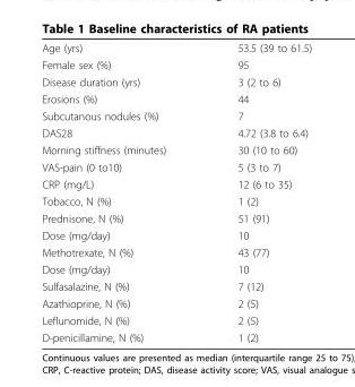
<table><tbody><tr><td>Age (yrs)</td><td>53.5 (39 to 61.5)</td></tr><tr><td>Female sex (%)</td><td>95</td></tr><tr><td>Disease duration (yrs)</td><td>3 (2 to 6)</td></tr><tr><td>Erosions (%)</td><td>44</td></tr><tr><td>Subcutanous nodules (%)</td><td>7</td></tr><tr><td>DAS28</td><td>4.72 (3.8 to 6.4)</td></tr><tr><td>Morning stiffness (minutes)</td><td>30 (10 to 60)</td></tr><tr><td>VAS-pain (0 to10)</td><td>5 (3 to 7)</td></tr><tr><td>CRP (mg/L)</td><td>12 (6 to 35)</td></tr><tr><td>Tobacco, N (%)</td><td>1 (2)</td></tr><tr><td>Prednisone, N (%)</td><td>51 (91)</td></tr><tr><td>Dose (mg/day)</td><td>10</td></tr><tr><td>Methotrexate, N (%)</td><td>43 (77)</td></tr><tr><td>Dose (mg/day)</td><td>10</td></tr><tr><td>Sulfasalazine, N (%)</td><td>7 (12)</td></tr><tr><td>Azathioprine, N (%)</td><td>2 (5)</td></tr><tr><td>Leflunomide, N (%)</td><td>2 (5)</td></tr><tr><td>D-penicillamine, N (%)</td><td>1 (2)</td></tr></tbody></table>